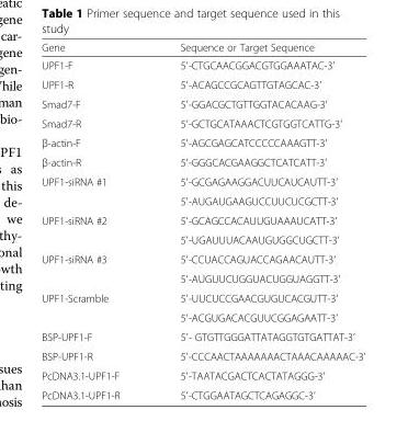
<table><thead><tr><td>Gene</td><td>Sequence or Target Sequence</td></tr></thead><tbody><tr><td>UPF1-F</td><td>5′-CTGCAACGGACGTGGAAATAC-3′</td></tr><tr><td>UPF1-R</td><td>5′-ACAGCCGCAGTTGTAGCAC-3′</td></tr><tr><td>Smad7-F</td><td>5′-GGACGCTGTTGGTACACAAG-3′</td></tr><tr><td>Smad7-R</td><td>5′-GCTGCATAAACTCGTGGTCATTG-3′</td></tr><tr><td>β-actin-F</td><td>5′-AGCGAGCATCCCCCAAAGTT-3′</td></tr><tr><td>β-actin-R</td><td>5′-GGGCACGAAGGCTCATCATT-3′</td></tr><tr><td rowspan="2">UPF1-siRNA #1</td><td>5′-GCGAGAAGGACUUCAUCAUTT-3′</td></tr><tr><td>5′-AUGAUGAAGUCCUUCUCGCTT-3′</td></tr><tr><td rowspan="2">UPF1-siRNA #2</td><td>5′-GCAGCCACAUUGUAAAUCATT-3′</td></tr><tr><td>5′-UGAUUUACAAUGUGGCUGCTT-3′</td></tr><tr><td rowspan="2">UPF1-siRNA #3</td><td>5′-CCUACCAGUACCAGAACAUTT-3′</td></tr><tr><td>5′-AUGUUCUGGUACUGGUAGGTT-3′</td></tr><tr><td rowspan="2">UPF1-Scramble</td><td>5′-UUCUCCGAACGUGUCACGUTT-3′</td></tr><tr><td>5′-ACGUGACACGUUCGGAGAATT-3′</td></tr><tr><td>BSP-UPF1-F</td><td>5′- GTGTTGGGATTATAGGTGTGATTAT-3′</td></tr><tr><td>BSP-UPF1-R</td><td>5′-CCCAACTAAAAAAACTAAACAAAAAC-3′</td></tr><tr><td>PcDNA3.1-UPF1-F</td><td>5′-TAATACGACTCACTATAGGG-3′</td></tr><tr><td>PcDNA3.1-UPF1-R</td><td>5′-CTGGAATAGCTCAGAGGC-3′</td></tr></tbody></table>